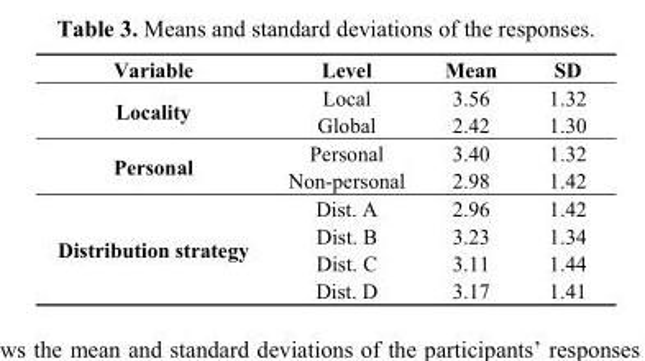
<table><thead><tr><td>Variable</td><td>Level</td><td>Mean</td><td>SD</td></tr></thead><tbody><tr><td rowspan="2">Locality</td><td>Local</td><td>3.56</td><td>1.32</td></tr><tr><td>Global</td><td>2.42</td><td>1.30</td></tr><tr><td rowspan="2">Personal</td><td>Personal</td><td>3.40</td><td>1.32</td></tr><tr><td>Non-personal</td><td>2.98</td><td>1.42</td></tr><tr><td rowspan="4">Distribution strategy</td><td>Dist. A</td><td>2.96</td><td>1.42</td></tr><tr><td>Dist. B</td><td>3.23</td><td>1.34</td></tr><tr><td>Dist. C</td><td>3.11</td><td>1.44</td></tr><tr><td>Dist. D</td><td>3.17</td><td>1.41</td></tr></tbody></table>